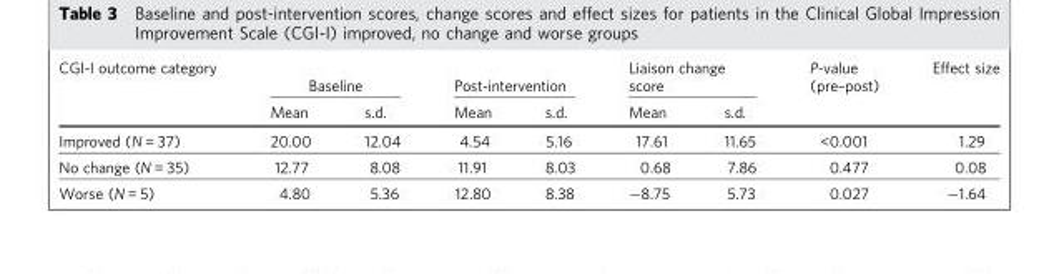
<table><thead><tr><td rowspan="2">CGI-I outcome category</td><td colspan="2">Baseline</td><td colspan="2">Post-intervention</td><td colspan="2">Liaison change score</td><td rowspan="2">P-value (pre–post)</td><td rowspan="2">Effect size</td></tr><tr><td>Mean</td><td>s.d.</td><td>Mean</td><td>s.d.</td><td>Mean</td><td>s.d.</td></tr></thead><tbody><tr><td>Improved (N = 37)</td><td>20.00</td><td>12.04</td><td>4.54</td><td>5.16</td><td>17.61</td><td>11.65</td><td>&lt;0.001</td><td>1.29</td></tr><tr><td>No change (N = 35)</td><td>12.77</td><td>8.08</td><td>11.91</td><td>8.03</td><td>0.68</td><td>7.86</td><td>0.477</td><td>0.08</td></tr><tr><td>Worse (N = 5)</td><td>4.80</td><td>5.36</td><td>12.80</td><td>8.38</td><td>−8.75</td><td>5.73</td><td>0.027</td><td>−1.64</td></tr></tbody></table>